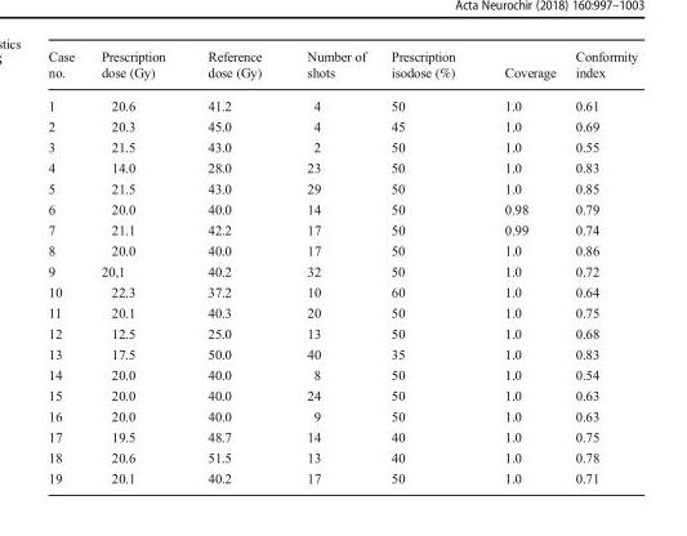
<table><thead><tr><td>Case no.</td><td>Prescription dose (Gy)</td><td>Reference dose (Gy)</td><td>Number of shots</td><td>Prescription isodose (%)</td><td>Coverage</td><td>Conformity index</td></tr></thead><tbody><tr><td>1</td><td>20.6</td><td>41.2</td><td>4</td><td>50</td><td>1.0</td><td>0.61</td></tr><tr><td>2</td><td>20.3</td><td>45.0</td><td>4</td><td>45</td><td>1.0</td><td>0.69</td></tr><tr><td>3</td><td>21.5</td><td>43.0</td><td>2</td><td>50</td><td>1.0</td><td>0.55</td></tr><tr><td>4</td><td>14.0</td><td>28.0</td><td>23</td><td>50</td><td>1.0</td><td>0.83</td></tr><tr><td>5</td><td>21.5</td><td>43.0</td><td>29</td><td>50</td><td>1.0</td><td>0.85</td></tr><tr><td>6</td><td>20.0</td><td>40.0</td><td>14</td><td>50</td><td>0.98</td><td>0.79</td></tr><tr><td>7</td><td>21.1</td><td>42.2</td><td>17</td><td>50</td><td>0.99</td><td>0.74</td></tr><tr><td>8</td><td>20.0</td><td>40.0</td><td>17</td><td>50</td><td>1.0</td><td>0.86</td></tr><tr><td>9</td><td>20,1</td><td>40.2</td><td>32</td><td>50</td><td>1.0</td><td>0.72</td></tr><tr><td>10</td><td>22.3</td><td>37.2</td><td>10</td><td>60</td><td>1.0</td><td>0.64</td></tr><tr><td>11</td><td>20.1</td><td>40.3</td><td>20</td><td>50</td><td>1.0</td><td>0.75</td></tr><tr><td>12</td><td>12.5</td><td>25.0</td><td>13</td><td>50</td><td>1.0</td><td>0.68</td></tr><tr><td>13</td><td>17.5</td><td>50.0</td><td>40</td><td>35</td><td>1.0</td><td>0.83</td></tr><tr><td>14</td><td>20.0</td><td>40.0</td><td>8</td><td>50</td><td>1.0</td><td>0.54</td></tr><tr><td>15</td><td>20.0</td><td>40.0</td><td>24</td><td>50</td><td>1.0</td><td>0.63</td></tr><tr><td>16</td><td>20.0</td><td>40.0</td><td>9</td><td>50</td><td>1.0</td><td>0.63</td></tr><tr><td>17</td><td>19.5</td><td>48.7</td><td>14</td><td>40</td><td>1.0</td><td>0.75</td></tr><tr><td>18</td><td>20.6</td><td>51.5</td><td>13</td><td>40</td><td>1.0</td><td>0.78</td></tr><tr><td>19</td><td>20.1</td><td>40.2</td><td>17</td><td>50</td><td>1.0</td><td>0.71</td></tr></tbody></table>